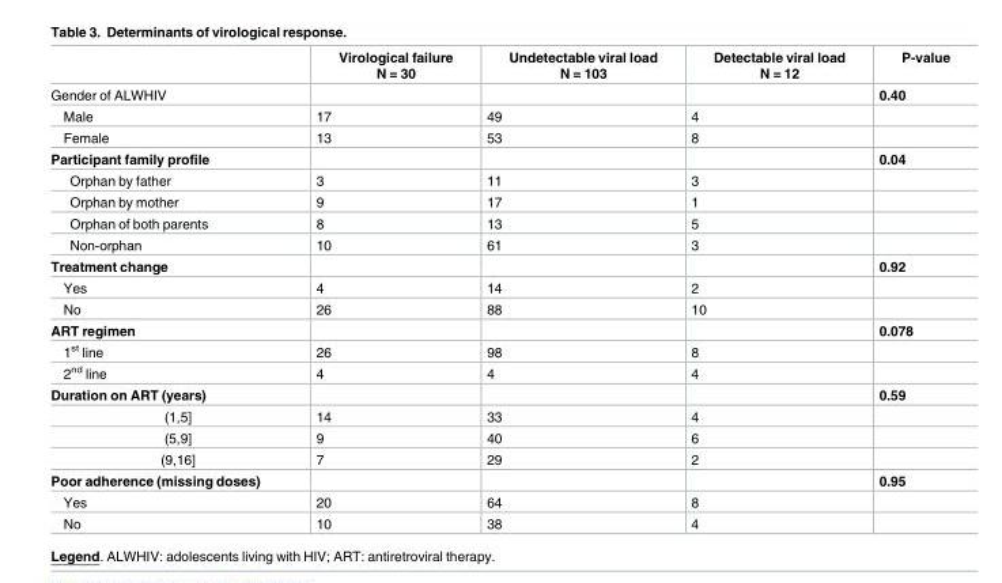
<table><thead><tr><td></td><td>Virological failure N = 30</td><td>Undetectable viral load N = 103</td><td>Detectable viral load N = 12</td><td>P-value</td></tr></thead><tbody><tr><td>Gender of ALWHIV</td><td></td><td></td><td></td><td>0.40</td></tr><tr><td>Male</td><td>17</td><td>49</td><td>4</td><td></td></tr><tr><td>Female</td><td>13</td><td>53</td><td>8</td><td></td></tr><tr><td>Participant family profile</td><td></td><td></td><td></td><td>0.04</td></tr><tr><td>Orphan by father</td><td>3</td><td>11</td><td>3</td><td></td></tr><tr><td>Orphan by mother</td><td>9</td><td>17</td><td>1</td><td></td></tr><tr><td>Orphan of both parents</td><td>8</td><td>13</td><td>5</td><td></td></tr><tr><td>Non-orphan</td><td>10</td><td>61</td><td>3</td><td></td></tr><tr><td>Treatment change</td><td></td><td></td><td></td><td>0.92</td></tr><tr><td>Yes</td><td>4</td><td>14</td><td>2</td><td></td></tr><tr><td>No</td><td>26</td><td>88</td><td>10</td><td></td></tr><tr><td>ART regimen</td><td></td><td></td><td></td><td>0.078</td></tr><tr><td>1<sup>st</sup> line</td><td>26</td><td>98</td><td>8</td><td></td></tr><tr><td>2<sup>nd</sup> line</td><td>4</td><td>4</td><td>4</td><td></td></tr><tr><td>Duration on ART (years)</td><td></td><td></td><td></td><td>0.59</td></tr><tr><td>(1,5]</td><td>14</td><td>33</td><td>4</td><td></td></tr><tr><td>(5,9]</td><td>9</td><td>40</td><td>6</td><td></td></tr><tr><td>(9,16]</td><td>7</td><td>29</td><td>2</td><td></td></tr><tr><td>Poor adherence (missing doses)</td><td></td><td></td><td></td><td>0.95</td></tr><tr><td>Yes</td><td>20</td><td>64</td><td>8</td><td></td></tr><tr><td>No</td><td>10</td><td>38</td><td>4</td><td></td></tr></tbody></table>